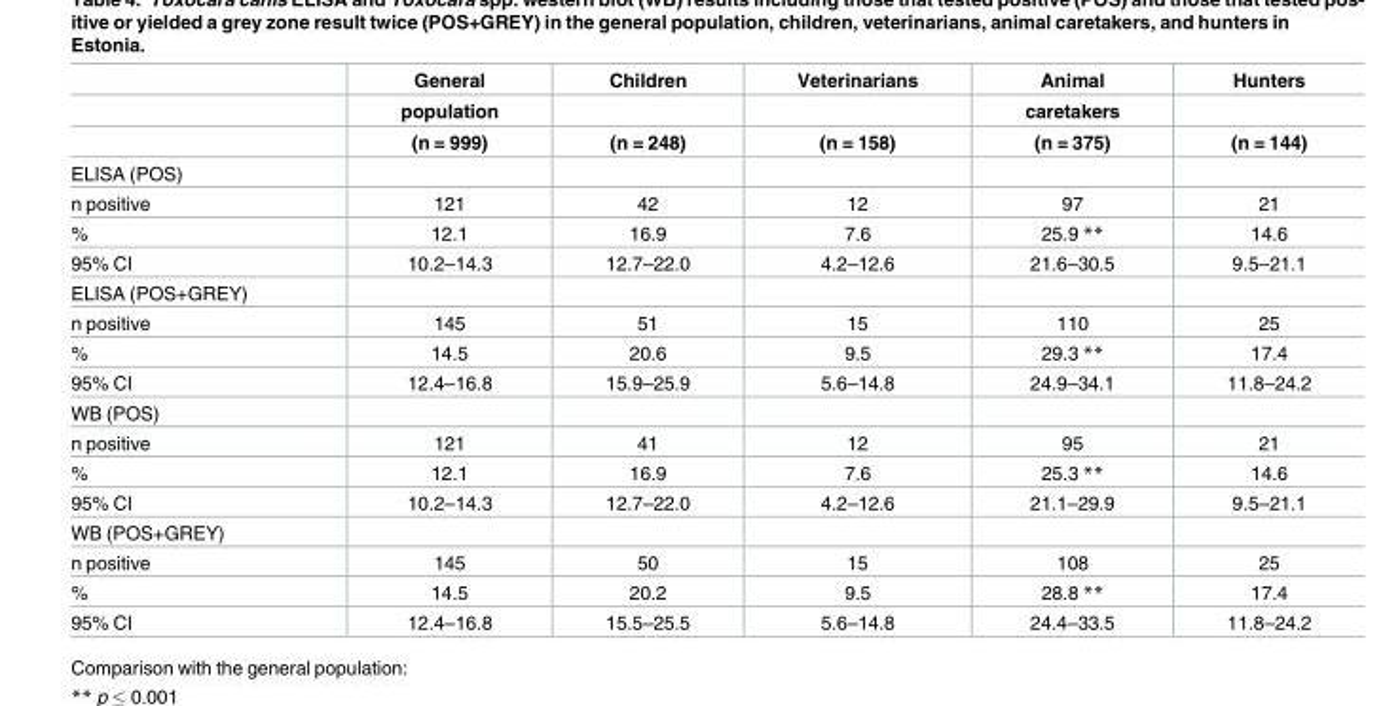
<table><thead><tr><td rowspan="3"></td><td rowspan="3">General population (n = 999)</td><td rowspan="3">Children (n = 248)</td><td rowspan="3">Veterinarians (n = 158)</td><td rowspan="3">Animal caretakers (n = 375)</td><td rowspan="3">Hunters (n = 144)</td></tr><tr></tr><tr></tr></thead><tbody><tr><td colspan="6">ELISA (POS)</td></tr><tr><td>n positive</td><td>121</td><td>42</td><td>12</td><td>97</td><td>21</td></tr><tr><td>%</td><td>12.1</td><td>16.9</td><td>7.6</td><td>25.9 **</td><td>14.6</td></tr><tr><td>95% CI</td><td>10.2–14.3</td><td>12.7–22.0</td><td>4.2–12.6</td><td>21.6–30.5</td><td>9.5–21.1</td></tr><tr><td colspan="6">ELISA (POS+GREY)</td></tr><tr><td>n positive</td><td>145</td><td>51</td><td>15</td><td>110</td><td>25</td></tr><tr><td>%</td><td>14.5</td><td>20.6</td><td>9.5</td><td>29.3 **</td><td>17.4</td></tr><tr><td>95% CI</td><td>12.4–16.8</td><td>15.9–25.9</td><td>5.6–14.8</td><td>24.9–34.1</td><td>11.8–24.2</td></tr><tr><td colspan="6">WB (POS)</td></tr><tr><td>n positive</td><td>121</td><td>41</td><td>12</td><td>95</td><td>21</td></tr><tr><td>%</td><td>12.1</td><td>16.9</td><td>7.6</td><td>25.3 **</td><td>14.6</td></tr><tr><td>95% CI</td><td>10.2–14.3</td><td>12.7–22.0</td><td>4.2–12.6</td><td>21.1–29.9</td><td>9.5–21.1</td></tr><tr><td colspan="6">WB (POS+GREY)</td></tr><tr><td>n positive</td><td>145</td><td>50</td><td>15</td><td>108</td><td>25</td></tr><tr><td>%</td><td>14.5</td><td>20.2</td><td>9.5</td><td>28.8 **</td><td>17.4</td></tr><tr><td>95% CI</td><td>12.4–16.8</td><td>15.5–25.5</td><td>5.6–14.8</td><td>24.4–33.5</td><td>11.8–24.2</td></tr></tbody></table>